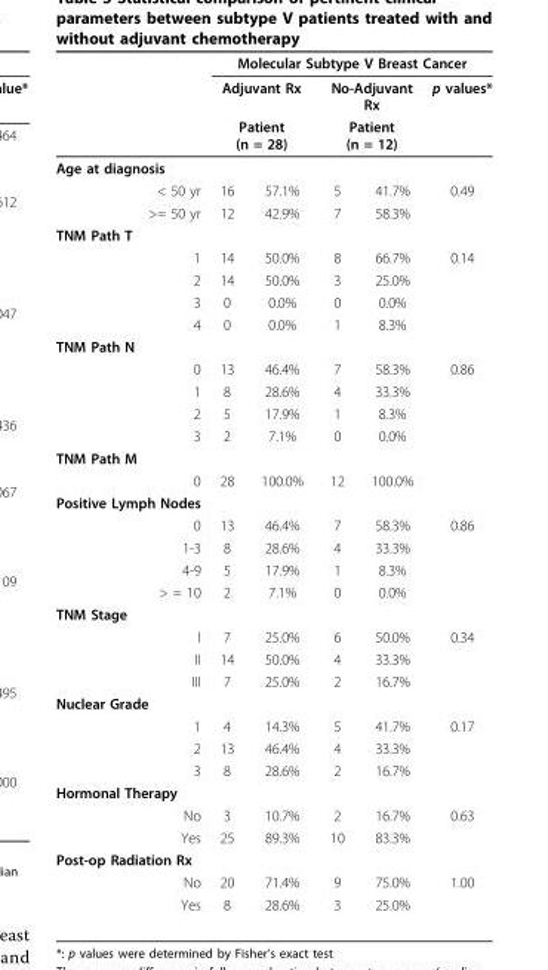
<table><thead><tr><td rowspan="4">Age at diagnosis</td><td colspan="5">Molecular Subtype V Breast Cancer</td></tr><tr><td rowspan="2" colspan="2">Adjuvant Rx Patient (n = 28)</td><td rowspan="2" colspan="2">No-Adjuvant Rx Patient (n = 12)</td><td rowspan="3">p values*</td></tr><tr></tr><tr><td></td><td></td><td></td><td></td></tr></thead><tbody><tr><td>&lt; 50 yr</td><td>16</td><td>57.1%</td><td>5</td><td>41.7%</td><td>0.49</td></tr><tr><td>&gt;= 50 yr</td><td>12</td><td>42.9%</td><td>7</td><td>58.3%</td><td></td></tr><tr><td colspan="6">TNM Path T</td></tr><tr><td>1</td><td>14</td><td>50.0%</td><td>8</td><td>66.7%</td><td>0.14</td></tr><tr><td>2</td><td>14</td><td>50.0%</td><td>3</td><td>25.0%</td><td></td></tr><tr><td>3</td><td>0</td><td>0.0%</td><td>0</td><td>0.0%</td><td></td></tr><tr><td>4</td><td>0</td><td>0.0%</td><td>1</td><td>8.3%</td><td></td></tr><tr><td colspan="6">TNM Path N</td></tr><tr><td>0</td><td>13</td><td>46.4%</td><td>7</td><td>58.3%</td><td>0.86</td></tr><tr><td>1</td><td>8</td><td>28.6%</td><td>4</td><td>33.3%</td><td></td></tr><tr><td>2</td><td>5</td><td>17.9%</td><td>1</td><td>8.3%</td><td></td></tr><tr><td>3</td><td>2</td><td>7.1%</td><td>0</td><td>0.0%</td><td></td></tr><tr><td colspan="6">TNM Path M</td></tr><tr><td>0</td><td>28</td><td>100.0%</td><td>12</td><td>100.0%</td><td></td></tr><tr><td colspan="6">Positive Lymph Nodes</td></tr><tr><td>0</td><td>13</td><td>46.4%</td><td>7</td><td>58.3%</td><td>0.86</td></tr><tr><td>1-3</td><td>8</td><td>28.6%</td><td>4</td><td>33.3%</td><td></td></tr><tr><td>4-9</td><td>5</td><td>17.9%</td><td>1</td><td>8.3%</td><td></td></tr><tr><td>&gt; = 10</td><td>2</td><td>7.1%</td><td>0</td><td>0.0%</td><td></td></tr><tr><td colspan="6">TNM Stage</td></tr><tr><td>I</td><td>7</td><td>25.0%</td><td>6</td><td>50.0%</td><td>0.34</td></tr><tr><td>II</td><td>14</td><td>50.0%</td><td>4</td><td>33.3%</td><td></td></tr><tr><td>III</td><td>7</td><td>25.0%</td><td>2</td><td>16.7%</td><td></td></tr><tr><td colspan="6">Nuclear Grade</td></tr><tr><td>1</td><td>4</td><td>14.3%</td><td>5</td><td>41.7%</td><td>0.17</td></tr><tr><td>2</td><td>13</td><td>46.4%</td><td>4</td><td>33.3%</td><td></td></tr><tr><td>3</td><td>8</td><td>28.6%</td><td>2</td><td>16.7%</td><td></td></tr><tr><td colspan="6">Hormonal Therapy</td></tr><tr><td>No</td><td>3</td><td>10.7%</td><td>2</td><td>16.7%</td><td>0.63</td></tr><tr><td>Yes</td><td>25</td><td>89.3%</td><td>10</td><td>83.3%</td><td></td></tr><tr><td colspan="6">Post-op Radiation Rx</td></tr><tr><td>No</td><td>20</td><td>71.4%</td><td>9</td><td>75.0%</td><td>1.00</td></tr><tr><td>Yes</td><td>8</td><td>28.6%</td><td>3</td><td>25.0%</td><td></td></tr></tbody></table>